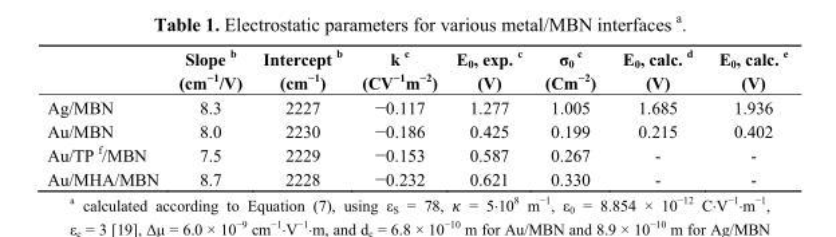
<table><thead><tr><td></td><td>Slope b (cm<sup>−1</sup>/V)</td><td>Intercept b (cm<sup>−1</sup>)</td><td>k c (CV<sup>−1</sup>m<sup>−2</sup>)</td><td>E<sub>0</sub>, exp. c (V)</td><td>σ<sub>0</sub> c (Cm<sup>−2</sup>)</td><td>E<sub>0</sub>, calc. d (V)</td><td>E<sub>0</sub>, calc. e (V)</td></tr></thead><tbody><tr><td>Ag/MBN</td><td>8.3</td><td>2227</td><td>−0.117</td><td>1.277</td><td>1.005</td><td>1.685</td><td>1.936</td></tr><tr><td>Au/MBN</td><td>8.0</td><td>2230</td><td>−0.186</td><td>0.425</td><td>0.199</td><td>0.215</td><td>0.402</td></tr><tr><td>Au/TP f/MBN</td><td>7.5</td><td>2229</td><td>−0.153</td><td>0.587</td><td>0.267</td><td>-</td><td>-</td></tr><tr><td>Au/MHA/MBN</td><td>8.7</td><td>2228</td><td>−0.232</td><td>0.621</td><td>0.330</td><td>-</td><td>-</td></tr></tbody></table>